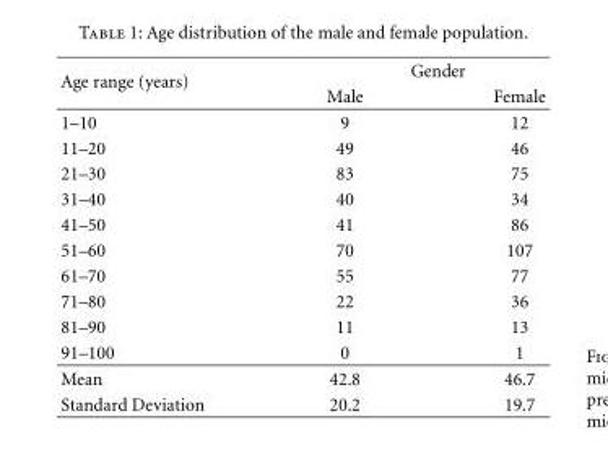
<table><thead><tr><td rowspan="2">Age range (years)</td><td colspan="2">Gender</td></tr><tr><td>Male</td><td>Female</td></tr></thead><tbody><tr><td>1–10</td><td>9</td><td>12</td></tr><tr><td>11–20</td><td>49</td><td>46</td></tr><tr><td>21–30</td><td>83</td><td>75</td></tr><tr><td>31–40</td><td>40</td><td>34</td></tr><tr><td>41–50</td><td>41</td><td>86</td></tr><tr><td>51–60</td><td>70</td><td>107</td></tr><tr><td>61–70</td><td>55</td><td>77</td></tr><tr><td>71–80</td><td>22</td><td>36</td></tr><tr><td>81–90</td><td>11</td><td>13</td></tr><tr><td>91–100</td><td>0</td><td>1</td></tr><tr><td>Mean</td><td>42.8</td><td>46.7</td></tr><tr><td>Standard Deviation</td><td>20.2</td><td>19.7</td></tr></tbody></table>